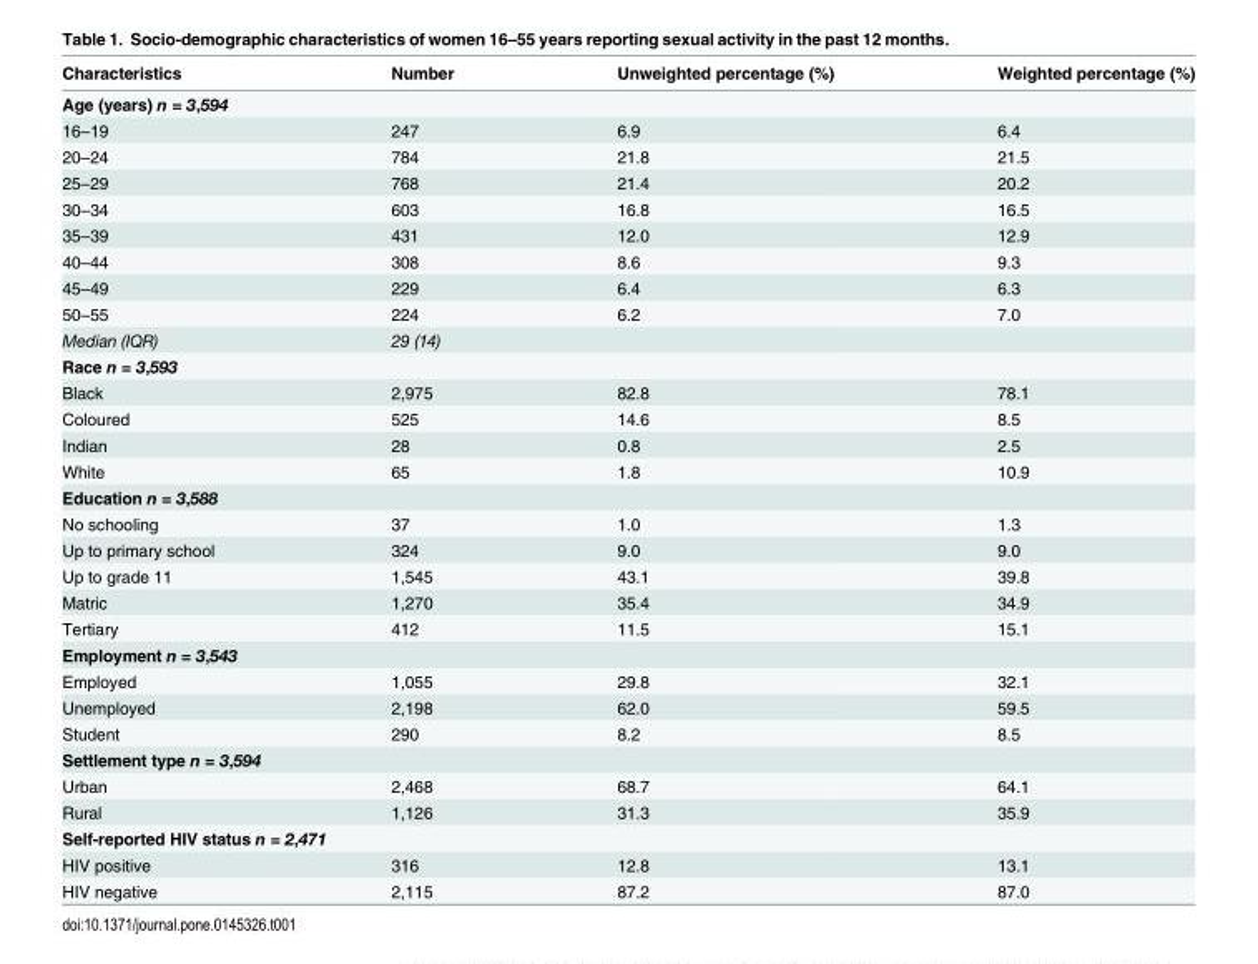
<table><thead><tr><td>Characteristics</td><td>Number</td><td>Unweighted percentage (%)</td><td>Weighted percentage (%)</td></tr></thead><tbody><tr><td colspan="4">Age (years) n = 3,594</td></tr><tr><td>16–19</td><td>247</td><td>6.9</td><td>6.4</td></tr><tr><td>20–24</td><td>784</td><td>21.8</td><td>21.5</td></tr><tr><td>25–29</td><td>768</td><td>21.4</td><td>20.2</td></tr><tr><td>30–34</td><td>603</td><td>16.8</td><td>16.5</td></tr><tr><td>35–39</td><td>431</td><td>12.0</td><td>12.9</td></tr><tr><td>40–44</td><td>308</td><td>8.6</td><td>9.3</td></tr><tr><td>45–49</td><td>229</td><td>6.4</td><td>6.3</td></tr><tr><td>50–55</td><td>224</td><td>6.2</td><td>7.0</td></tr><tr><td>Median (IQR)</td><td>29 (14)</td><td></td><td></td></tr><tr><td colspan="4">Race n = 3,593</td></tr><tr><td>Black</td><td>2,975</td><td>82.8</td><td>78.1</td></tr><tr><td>Coloured</td><td>525</td><td>14.6</td><td>8.5</td></tr><tr><td>Indian</td><td>28</td><td>0.8</td><td>2.5</td></tr><tr><td>White</td><td>65</td><td>1.8</td><td>10.9</td></tr><tr><td colspan="4">Education n = 3,588</td></tr><tr><td>No schooling</td><td>37</td><td>1.0</td><td>1.3</td></tr><tr><td>Up to primary school</td><td>324</td><td>9.0</td><td>9.0</td></tr><tr><td>Up to grade 11</td><td>1,545</td><td>43.1</td><td>39.8</td></tr><tr><td>Matric</td><td>1,270</td><td>35.4</td><td>34.9</td></tr><tr><td>Tertiary</td><td>412</td><td>11.5</td><td>15.1</td></tr><tr><td colspan="4">Employment n = 3,543</td></tr><tr><td>Employed</td><td>1,055</td><td>29.8</td><td>32.1</td></tr><tr><td>Unemployed</td><td>2,198</td><td>62.0</td><td>59.5</td></tr><tr><td>Student</td><td>290</td><td>8.2</td><td>8.5</td></tr><tr><td colspan="4">Settlement type n = 3,594</td></tr><tr><td>Urban</td><td>2,468</td><td>68.7</td><td>64.1</td></tr><tr><td>Rural</td><td>1,126</td><td>31.3</td><td>35.9</td></tr><tr><td colspan="4">Self-reported HIV status n = 2,471</td></tr><tr><td>HIV positive</td><td>316</td><td>12.8</td><td>13.1</td></tr><tr><td>HIV negative</td><td>2,115</td><td>87.2</td><td>87.0</td></tr></tbody></table>